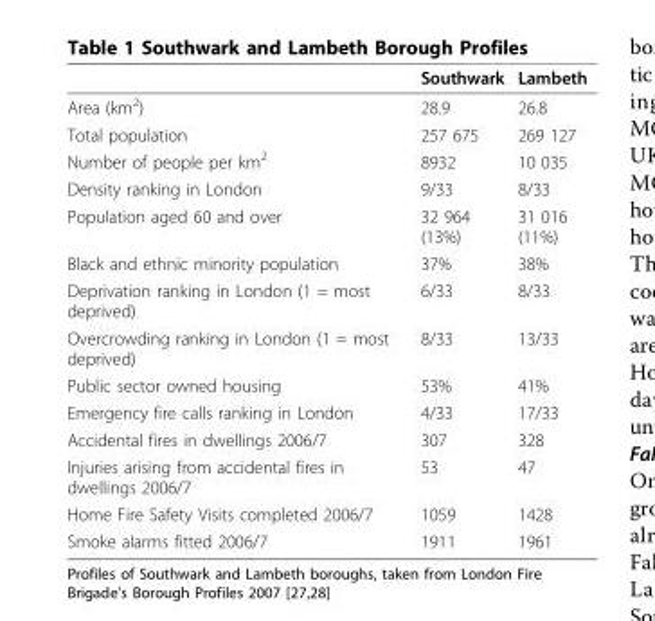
<table><thead><tr><td></td><td>Southwark</td><td>Lambeth</td></tr></thead><tbody><tr><td>Area (km<sup>2</sup>)</td><td>28.9</td><td>26.8</td></tr><tr><td>Total population</td><td>257 675</td><td>269 127</td></tr><tr><td>Number of people per km<sup>2</sup></td><td>8932</td><td>10 035</td></tr><tr><td>Density ranking in London</td><td>9/33</td><td>8/33</td></tr><tr><td>Population aged 60 and over</td><td>32 964 (13%)</td><td>31 016 (11%)</td></tr><tr><td>Black and ethnic minority population</td><td>37%</td><td>38%</td></tr><tr><td>Deprivation ranking in London (1 = most deprived)</td><td>6/33</td><td>8/33</td></tr><tr><td>Overcrowding ranking in London (1 = most deprived)</td><td>8/33</td><td>13/33</td></tr><tr><td>Public sector owned housing</td><td>53%</td><td>41%</td></tr><tr><td>Emergency fire calls ranking in London</td><td>4/33</td><td>17/33</td></tr><tr><td>Accidental fires in dwellings 2006/7</td><td>307</td><td>328</td></tr><tr><td>Injuries arising from accidental fires in dwellings 2006/7</td><td>53</td><td>47</td></tr><tr><td>Home Fire Safety Visits completed 2006/7</td><td>1059</td><td>1428</td></tr><tr><td>Smoke alarms fitted 2006/7</td><td>1911</td><td>1961</td></tr></tbody></table>